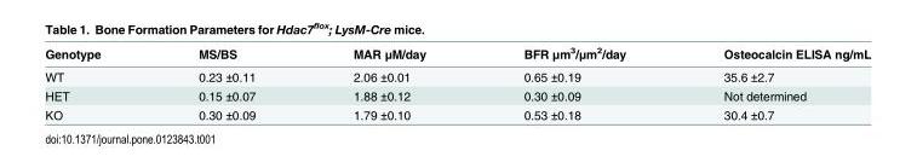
<table><thead><tr><td>Genotype</td><td>MS/BS</td><td>MAR μM/day</td><td>BFR μm<sup>3</sup>/μm<sup>2</sup>/day</td><td>Osteocalcin ELISA ng/mL</td></tr></thead><tbody><tr><td>WT</td><td>0.23 ±0.11</td><td>2.06 ±0.01</td><td>0.65 ±0.19</td><td>35.6 ±2.7</td></tr><tr><td>HET</td><td>0.15 ±0.07</td><td>1.88 ±0.12</td><td>0.30 ±0.09</td><td>Not determined</td></tr><tr><td>KO</td><td>0.30 ±0.09</td><td>1.79 ±0.10</td><td>0.53 ±0.18</td><td>30.4 ±0.7</td></tr></tbody></table>